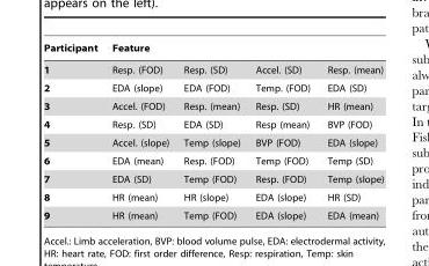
<table><thead><tr><td rowspan="2">Participant 1</td><td colspan="4">Feature</td></tr><tr><td>Resp. (FOD)</td><td>Resp. (SD)</td><td>Accel. (SD)</td><td>Resp. (mean)</td></tr></thead><tbody><tr><td>2</td><td>EDA (slope)</td><td>EDA (FOD)</td><td>Temp. (FOD)</td><td>EDA (SD)</td></tr><tr><td>3</td><td>Accel. (FOD)</td><td>Resp. (mean)</td><td>Resp. (SD)</td><td>HR (mean)</td></tr><tr><td>4</td><td>Resp. (SD)</td><td>EDA (SD)</td><td>Resp (mean)</td><td>BVP (FOD)</td></tr><tr><td>5</td><td>Accel. (slope)</td><td>Temp (slope)</td><td>BVP (FOD)</td><td>EDA (slope)</td></tr><tr><td>6</td><td>EDA (mean)</td><td>Resp. (FOD)</td><td>Temp (FOD)</td><td>Temp (SD)</td></tr><tr><td>7</td><td>EDA (SD)</td><td>Temp (FOD)</td><td>Resp. (FOD)</td><td>Temp (slope)</td></tr><tr><td>8</td><td>HR (mean)</td><td>HR (slope)</td><td>EDA (slope)</td><td>HR (SD)</td></tr><tr><td>9</td><td>HR (mean)</td><td>Temp (FOD)</td><td>EDA (slope)</td><td>EDA (mean)</td></tr></tbody></table>